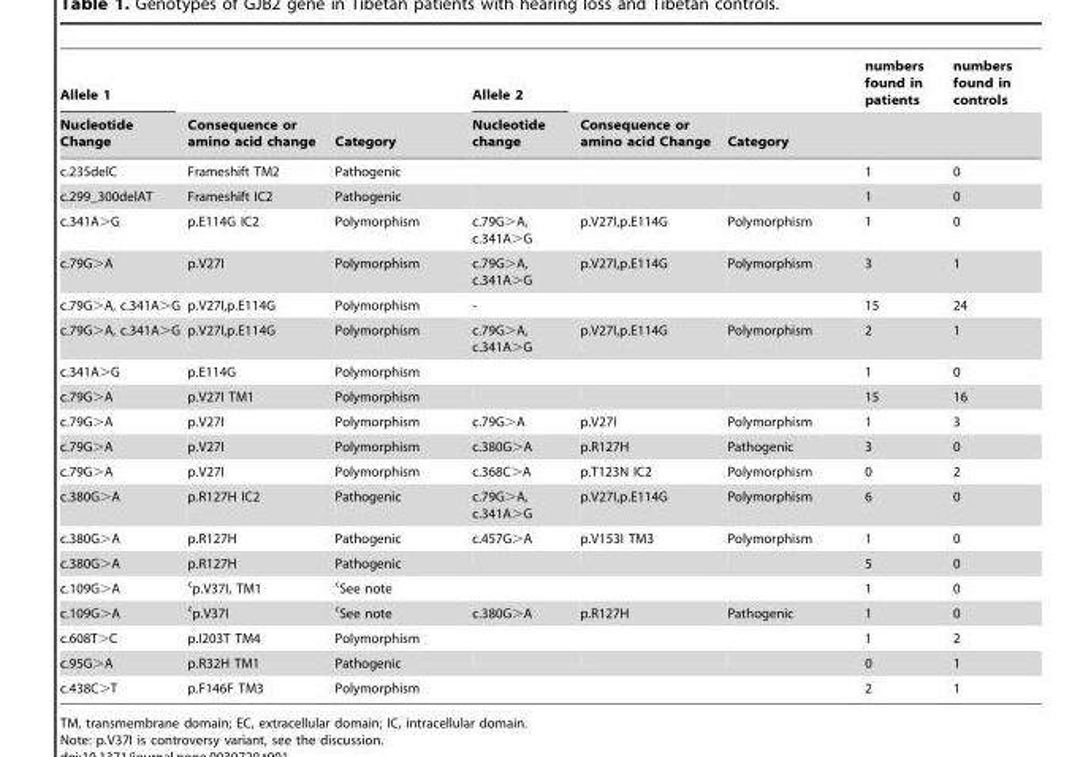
<table><thead><tr><td rowspan="2">Allele 1 Nucleotide Change</td><td rowspan="2">Consequence or amino acid change</td><td rowspan="2">Category</td><td rowspan="2">Allele 2 Nucleotide change</td><td rowspan="2">Consequence or amino acid Change</td><td rowspan="2">Category</td><td rowspan="2">numbers found in patients</td><td rowspan="2">numbers found in controls</td></tr><tr></tr></thead><tbody><tr><td>c.235delC</td><td>Frameshift TM2</td><td>Pathogenic</td><td></td><td></td><td></td><td>1</td><td>0</td></tr><tr><td>c.299_300delAT</td><td>Frameshift IC2</td><td>Pathogenic</td><td></td><td></td><td></td><td>1</td><td>0</td></tr><tr><td>c.341A&gt;G</td><td>p.E114G IC2</td><td>Polymorphism</td><td>c.79G&gt;A, c.341A&gt;G</td><td>p.V27I,p.E114G</td><td>Polymorphism</td><td>1</td><td>0</td></tr><tr><td>c.79G&gt;A</td><td>p.V27I</td><td>Polymorphism</td><td>c.79G&gt;A, c.341A&gt;G</td><td>p.V27I,p.E114G</td><td>Polymorphism</td><td>3</td><td>1</td></tr><tr><td>c.79G&gt;A, c.341A&gt;G</td><td>p.V27I,p.E114G</td><td>Polymorphism</td><td>-</td><td></td><td></td><td>15</td><td>24</td></tr><tr><td>c.79G&gt;A, c.341A&gt;G</td><td>p.V27I,p.E114G</td><td>Polymorphism</td><td>c.79G&gt;A, c.341A&gt;G</td><td>p.V27I,p.E114G</td><td>Polymorphism</td><td>2</td><td>1</td></tr><tr><td>c.341A&gt;G</td><td>p.E114G</td><td>Polymorphism</td><td></td><td></td><td></td><td>1</td><td>0</td></tr><tr><td>c.79G&gt;A</td><td>p.V27I TM1</td><td>Polymorphism</td><td></td><td></td><td></td><td>15</td><td>16</td></tr><tr><td>c.79G&gt;A</td><td>p.V27I</td><td>Polymorphism</td><td>c.79G&gt;A</td><td>p.V27I</td><td>Polymorphism</td><td>1</td><td>3</td></tr><tr><td>c.79G&gt;A</td><td>p.V27I</td><td>Polymorphism</td><td>c.380G&gt;A</td><td>p.R127H</td><td>Pathogenic</td><td>3</td><td>0</td></tr><tr><td>c.79G&gt;A</td><td>p.V27I</td><td>Polymorphism</td><td>c.368C&gt;A</td><td>p.T123N IC2</td><td>Polymorphism</td><td>0</td><td>2</td></tr><tr><td>c.380G&gt;A</td><td>p.R127H IC2</td><td>Pathogenic</td><td>c.79G&gt;A, c.341A&gt;G</td><td>p.V27I,p.E114G</td><td>Polymorphism</td><td>6</td><td>0</td></tr><tr><td>c.380G&gt;A</td><td>p.R127H</td><td>Pathogenic</td><td>c.457G&gt;A</td><td>p.V153I TM3</td><td>Polymorphism</td><td>1</td><td>0</td></tr><tr><td>c.380G&gt;A</td><td>p.R127H</td><td>Pathogenic</td><td></td><td></td><td></td><td>5</td><td>0</td></tr><tr><td>c.109G&gt;A</td><td><sup>c</sup>p.V37I, TM1</td><td><sup>c</sup>See note</td><td></td><td></td><td></td><td>1</td><td>0</td></tr><tr><td>c.109G&gt;A</td><td><sup>c</sup>p.V37I</td><td><sup>c</sup>See note</td><td>c.380G&gt;A</td><td>p.R127H</td><td>Pathogenic</td><td>1</td><td>0</td></tr><tr><td>c.608T&gt;C</td><td>p.I203T TM4</td><td>Polymorphism</td><td></td><td></td><td></td><td>1</td><td>2</td></tr><tr><td>c.95G&gt;A</td><td>p.R32H TM1</td><td>Pathogenic</td><td></td><td></td><td></td><td>0</td><td>1</td></tr><tr><td>c.438C&gt;T</td><td>p.F146F TM3</td><td>Polymorphism</td><td></td><td></td><td></td><td>2</td><td>1</td></tr></tbody></table>